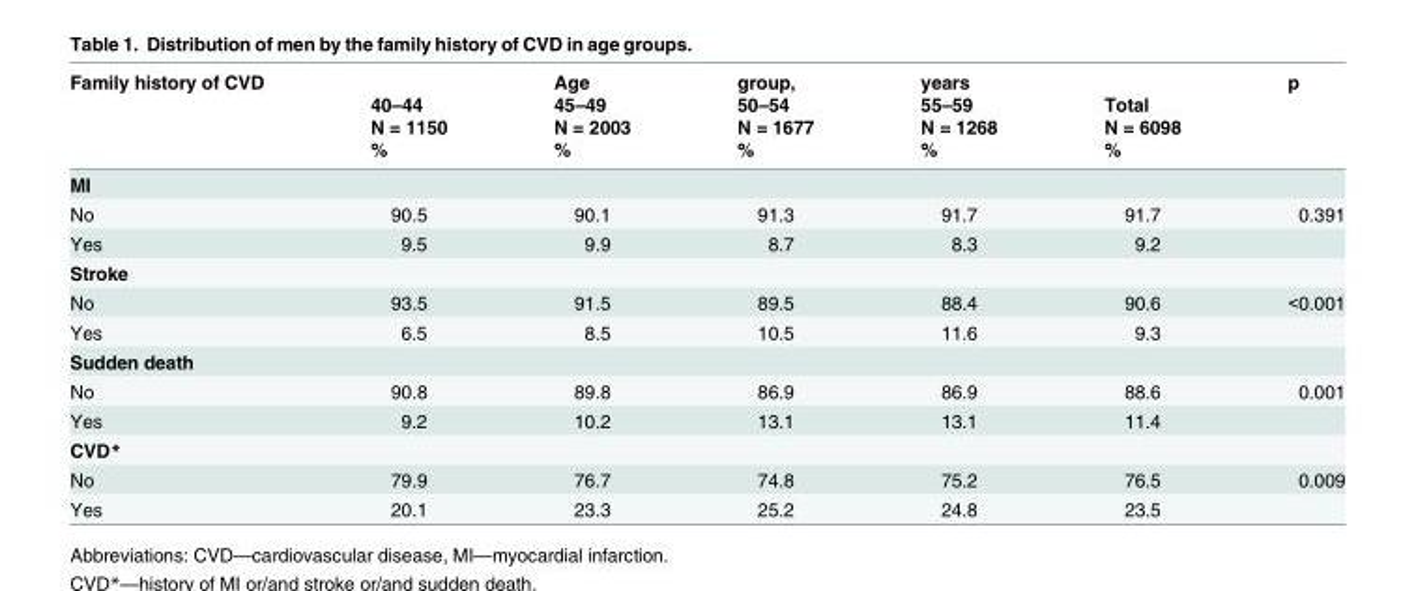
<table><thead><tr><td rowspan="4">Family history of CVD</td><td rowspan="4">40–44 N = 1150 %</td><td rowspan="4">Age 45–49 N = 2003 %</td><td rowspan="4">group, 50–54 N = 1677 %</td><td rowspan="4">years 55–59 N = 1268 %</td><td rowspan="4">Total N = 6098 %</td><td rowspan="4">p</td></tr><tr></tr><tr></tr><tr></tr></thead><tbody><tr><td colspan="7">MI</td></tr><tr><td>No</td><td>90.5</td><td>90.1</td><td>91.3</td><td>91.7</td><td>91.7</td><td>0.391</td></tr><tr><td>Yes</td><td>9.5</td><td>9.9</td><td>8.7</td><td>8.3</td><td>9.2</td><td></td></tr><tr><td colspan="7">Stroke</td></tr><tr><td>No</td><td>93.5</td><td>91.5</td><td>89.5</td><td>88.4</td><td>90.6</td><td>&lt;0.001</td></tr><tr><td>Yes</td><td>6.5</td><td>8.5</td><td>10.5</td><td>11.6</td><td>9.3</td><td></td></tr><tr><td colspan="7">Sudden death</td></tr><tr><td>No</td><td>90.8</td><td>89.8</td><td>86.9</td><td>86.9</td><td>88.6</td><td>0.001</td></tr><tr><td>Yes</td><td>9.2</td><td>10.2</td><td>13.1</td><td>13.1</td><td>11.4</td><td></td></tr><tr><td colspan="7">CVD*</td></tr><tr><td>No</td><td>79.9</td><td>76.7</td><td>74.8</td><td>75.2</td><td>76.5</td><td>0.009</td></tr><tr><td>Yes</td><td>20.1</td><td>23.3</td><td>25.2</td><td>24.8</td><td>23.5</td><td></td></tr></tbody></table>